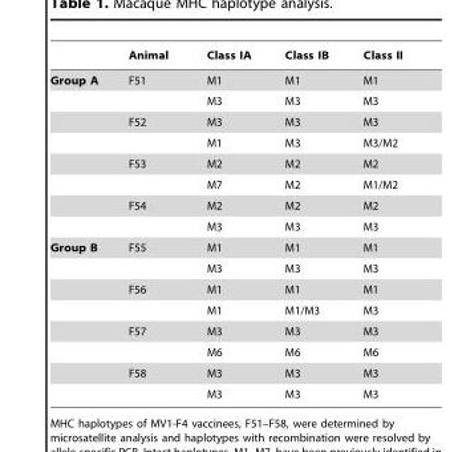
<table><thead><tr><td></td><td>Animal</td><td>Class IA</td><td>Class IB</td><td>Class II</td></tr></thead><tbody><tr><td rowspan="8">Group A</td><td>F51</td><td>M1</td><td>M1</td><td>M1</td></tr><tr><td></td><td>M3</td><td>M3</td><td>M3</td></tr><tr><td>F52</td><td>M3</td><td>M3</td><td>M3</td></tr><tr><td></td><td>M1</td><td>M3</td><td>M3/M2</td></tr><tr><td>F53</td><td>M2</td><td>M2</td><td>M2</td></tr><tr><td></td><td>M7</td><td>M2</td><td>M1/M2</td></tr><tr><td>F54</td><td>M2</td><td>M2</td><td>M2</td></tr><tr><td></td><td>M3</td><td>M3</td><td>M3</td></tr><tr><td rowspan="8">Group B</td><td>F55</td><td>M1</td><td>M1</td><td>M1</td></tr><tr><td></td><td>M3</td><td>M3</td><td>M3</td></tr><tr><td>F56</td><td>M1</td><td>M1</td><td>M1</td></tr><tr><td></td><td>M1</td><td>M1/M3</td><td>M3</td></tr><tr><td>F57</td><td>M3</td><td>M3</td><td>M3</td></tr><tr><td></td><td>M6</td><td>M6</td><td>M6</td></tr><tr><td>F58</td><td>M3</td><td>M3</td><td>M3</td></tr><tr><td></td><td>M3</td><td>M3</td><td>M3</td></tr></tbody></table>